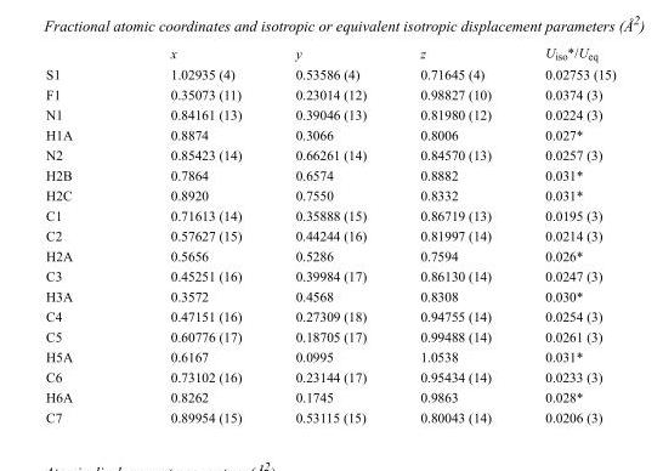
<table><thead><tr><td></td><td>x</td><td>y</td><td>z</td><td>U<sub>iso</sub>*/U<sub>eq</sub></td></tr></thead><tbody><tr><td>S1</td><td>1.02935 (4)</td><td>0.53586 (4)</td><td>0.71645 (4)</td><td>0.02753 (15)</td></tr><tr><td>F1</td><td>0.35073 (11)</td><td>0.23014 (12)</td><td>0.98827 (10)</td><td>0.0374 (3)</td></tr><tr><td>N1</td><td>0.84161 (13)</td><td>0.39046 (13)</td><td>0.81980 (12)</td><td>0.0224 (3)</td></tr><tr><td>H1A</td><td>0.8874</td><td>0.3066</td><td>0.8006</td><td>0.027*</td></tr><tr><td>N2</td><td>0.85423 (14)</td><td>0.66261 (14)</td><td>0.84570 (13)</td><td>0.0257 (3)</td></tr><tr><td>H2B</td><td>0.7864</td><td>0.6574</td><td>0.8882</td><td>0.031*</td></tr><tr><td>H2C</td><td>0.8920</td><td>0.7550</td><td>0.8332</td><td>0.031*</td></tr><tr><td>C1</td><td>0.71613 (14)</td><td>0.35888 (15)</td><td>0.86719 (13)</td><td>0.0195 (3)</td></tr><tr><td>C2</td><td>0.57627 (15)</td><td>0.44244 (16)</td><td>0.81997 (14)</td><td>0.0214 (3)</td></tr><tr><td>H2A</td><td>0.5656</td><td>0.5286</td><td>0.7594</td><td>0.026*</td></tr><tr><td>C3</td><td>0.45251 (16)</td><td>0.39984 (17)</td><td>0.86130 (14)</td><td>0.0247 (3)</td></tr><tr><td>H3A</td><td>0.3572</td><td>0.4568</td><td>0.8308</td><td>0.030*</td></tr><tr><td>C4</td><td>0.47151 (16)</td><td>0.27309 (18)</td><td>0.94755 (14)</td><td>0.0254 (3)</td></tr><tr><td>C5</td><td>0.60776 (17)</td><td>0.18705 (17)</td><td>0.99488 (14)</td><td>0.0261 (3)</td></tr><tr><td>H5A</td><td>0.6167</td><td>0.0995</td><td>1.0538</td><td>0.031*</td></tr><tr><td>C6</td><td>0.73102 (16)</td><td>0.23144 (17)</td><td>0.95434 (14)</td><td>0.0233 (3)</td></tr><tr><td>H6A</td><td>0.8262</td><td>0.1745</td><td>0.9863</td><td>0.028*</td></tr><tr><td>C7</td><td>0.89954 (15)</td><td>0.53115 (15)</td><td>0.80043 (14)</td><td>0.0206 (3)</td></tr></tbody></table>